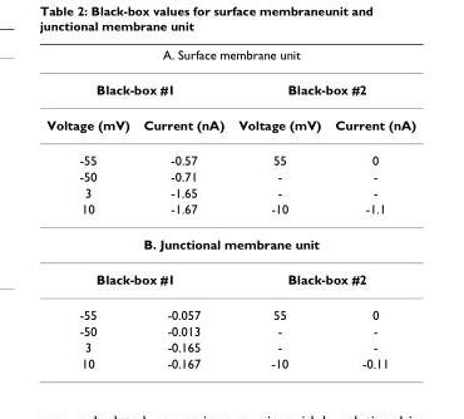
<table><thead><tr><td colspan="4">A. Surface membrane unit</td></tr><tr><td colspan="2">Black-box #1</td><td colspan="2">Black-box #2</td></tr><tr><td>Voltage (mV)</td><td>Current (nA)</td><td>Voltage (mV)</td><td>Current (nA)</td></tr></thead><tbody><tr><td>-55</td><td>-0.57</td><td>55</td><td>0</td></tr><tr><td>-50</td><td>-0.71</td><td>-</td><td>-</td></tr><tr><td>3</td><td>-1.65</td><td>-</td><td>-</td></tr><tr><td>10</td><td>-1.67</td><td>-10</td><td>-1.1</td></tr><tr><td colspan="4">B. Junctional membrane unit</td></tr><tr><td colspan="2">Black-box #1</td><td colspan="2">Black-box #2</td></tr><tr><td>-55</td><td>-0.057</td><td>55</td><td>0</td></tr><tr><td>-50</td><td>-0.013</td><td>-</td><td>-</td></tr><tr><td>3</td><td>-0.165</td><td>-</td><td>-</td></tr><tr><td>10</td><td>-0.167</td><td>-10</td><td>-0.11</td></tr></tbody></table>